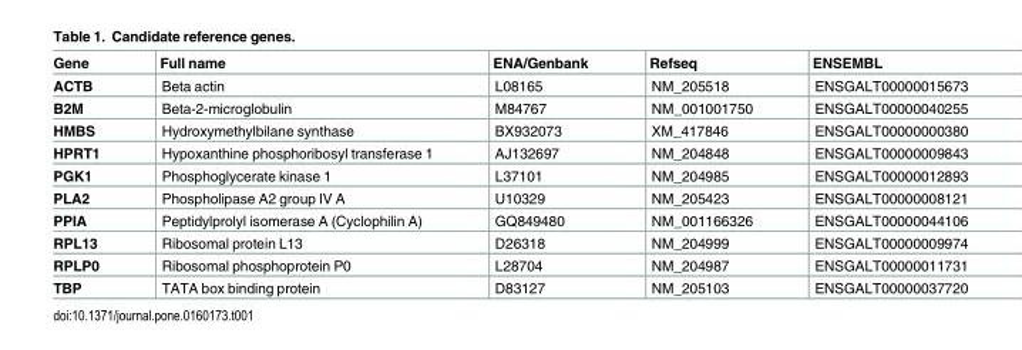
<table><thead><tr><td>Gene</td><td>Full name</td><td>ENA/Genbank</td><td>Refseq</td><td>ENSEMBL</td></tr></thead><tbody><tr><td>ACTB</td><td>Beta actin</td><td>L08165</td><td>NM_205518</td><td>ENSGALT00000015673</td></tr><tr><td>B2M</td><td>Beta-2-microglobulin</td><td>M84767</td><td>NM_001001750</td><td>ENSGALT00000040255</td></tr><tr><td>HMBS</td><td>Hydroxymethylbilane synthase</td><td>BX932073</td><td>XM_417846</td><td>ENSGALT00000000380</td></tr><tr><td>HPRT1</td><td>Hypoxanthine phosphoribosyl transferase 1</td><td>AJ132697</td><td>NM_204848</td><td>ENSGALT00000009843</td></tr><tr><td>PGK1</td><td>Phosphoglycerate kinase 1</td><td>L37101</td><td>NM_204985</td><td>ENSGALT00000012893</td></tr><tr><td>PLA2</td><td>Phospholipase A2 group IV A</td><td>U10329</td><td>NM_205423</td><td>ENSGALT00000008121</td></tr><tr><td>PPIA</td><td>Peptidylprolyl isomerase A (Cyclophilin A)</td><td>GQ849480</td><td>NM_001166326</td><td>ENSGALT00000044106</td></tr><tr><td>RPL13</td><td>Ribosomal protein L13</td><td>D26318</td><td>NM_204999</td><td>ENSGALT00000009974</td></tr><tr><td>RPLP0</td><td>Ribosomal phosphoprotein P0</td><td>L28704</td><td>NM_204987</td><td>ENSGALT00000011731</td></tr><tr><td>TBP</td><td>TATA box binding protein</td><td>D83127</td><td>NM_205103</td><td>ENSGALT00000037720</td></tr></tbody></table>